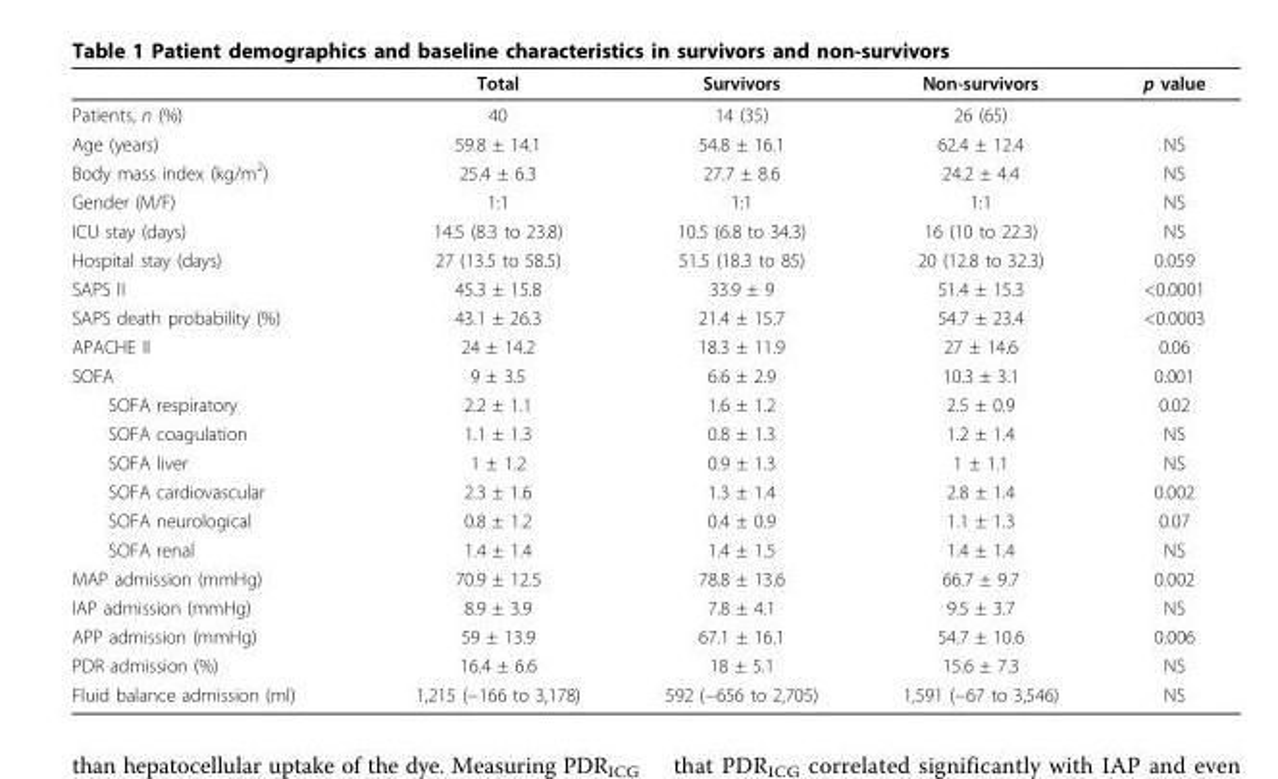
<table><thead><tr><td></td><td>Total</td><td>Survivors</td><td>Non-survivors</td><td>p value</td></tr></thead><tbody><tr><td>Patients, n (%)</td><td>40</td><td>14 (35)</td><td>26 (65)</td><td></td></tr><tr><td>Age (years)</td><td>59.8 ± 14.1</td><td>54.8 ± 16.1</td><td>62.4 ± 12.4</td><td>NS</td></tr><tr><td>Body mass index (kg/m<sup>2</sup>)</td><td>25.4 ± 6.3</td><td>27.7 ± 8.6</td><td>24.2 ± 4.4</td><td>NS</td></tr><tr><td>Gender (M/F)</td><td>1:1</td><td>1:1</td><td>1:1</td><td>NS</td></tr><tr><td>ICU stay (days)</td><td>14.5 (8.3 to 23.8)</td><td>10.5 (6.8 to 34.3)</td><td>16 (10 to 22.3)</td><td>NS</td></tr><tr><td>Hospital stay (days)</td><td>27 (13.5 to 58.5)</td><td>51.5 (18.3 to 85)</td><td>20 (12.8 to 32.3)</td><td>0.059</td></tr><tr><td>SAPS II</td><td>45.3 ± 15.8</td><td>33.9 ± 9</td><td>51.4 ± 15.3</td><td>&lt;0.0001</td></tr><tr><td>SAPS death probability (%)</td><td>43.1 ± 26.3</td><td>21.4 ± 15.7</td><td>54.7 ± 23.4</td><td>&lt;0.0003</td></tr><tr><td>APACHE II</td><td>24 ± 14.2</td><td>18.3 ± 11.9</td><td>27 ± 14.6</td><td>0.06</td></tr><tr><td>SOFA</td><td>9 ± 3.5</td><td>6.6 ± 2.9</td><td>10.3 ± 3.1</td><td>0.001</td></tr><tr><td>SOFA respiratory</td><td>2.2 ± 1.1</td><td>1.6 ± 1.2</td><td>2.5 ± 0.9</td><td>0.02</td></tr><tr><td>SOFA coagulation</td><td>1.1 ± 1.3</td><td>0.8 ± 1.3</td><td>1.2 ± 1.4</td><td>NS</td></tr><tr><td>SOFA liver</td><td>1 ± 1.2</td><td>0.9 ± 1.3</td><td>1 ± 1.1</td><td>NS</td></tr><tr><td>SOFA cardiovascular</td><td>2.3 ± 1.6</td><td>1.3 ± 1.4</td><td>2.8 ± 1.4</td><td>0.002</td></tr><tr><td>SOFA neurological</td><td>0.8 ± 1.2</td><td>0.4 ± 0.9</td><td>1.1 ± 1.3</td><td>0.07</td></tr><tr><td>SOFA renal</td><td>1.4 ± 1.4</td><td>1.4 ± 1.5</td><td>1.4 ± 1.4</td><td>NS</td></tr><tr><td>MAP admission (mmHg)</td><td>70.9 ± 12.5</td><td>78.8 ± 13.6</td><td>66.7 ± 9.7</td><td>0.002</td></tr><tr><td>IAP admission (mmHg)</td><td>8.9 ± 3.9</td><td>7.8 ± 4.1</td><td>9.5 ± 3.7</td><td>NS</td></tr><tr><td>APP admission (mmHg)</td><td>59 ± 13.9</td><td>67.1 ± 16.1</td><td>54.7 ± 10.6</td><td>0.006</td></tr><tr><td>PDR admission (%)</td><td>16.4 ± 6.6</td><td>18 ± 5.1</td><td>15.6 ± 7.3</td><td>NS</td></tr><tr><td>Fluid balance admission (ml)</td><td>1,215 (−166 to 3,178)</td><td>592 (−656 to 2,705)</td><td>1,591 (−67 to 3,546)</td><td>NS</td></tr></tbody></table>